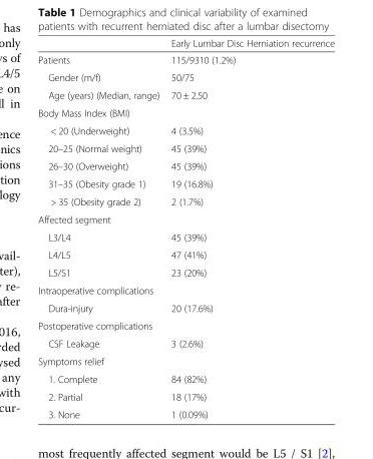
<table><thead><tr><td></td><td>Early Lumbar Disc Herniation recurrence</td></tr></thead><tbody><tr><td>Patients</td><td>115/9310 (1.2%)</td></tr><tr><td>Gender (m/f)</td><td>50/75</td></tr><tr><td>Age (years) (Median, range)</td><td>70 ± 2.50</td></tr><tr><td colspan="2">Body Mass Index (BMI)</td></tr><tr><td>&lt; 20 (Underweight)</td><td>4 (3.5%)</td></tr><tr><td>20–25 (Normal weight)</td><td>45 (39%)</td></tr><tr><td>26–30 (Overweight)</td><td>45 (39%)</td></tr><tr><td>31–35 (Obesity grade 1)</td><td>19 (16.8%)</td></tr><tr><td>&gt; 35 (Obesity grade 2)</td><td>2 (1.7%)</td></tr><tr><td colspan="2">Affected segment</td></tr><tr><td>L3/L4</td><td>45 (39%)</td></tr><tr><td>L4/L5</td><td>47 (41%)</td></tr><tr><td>L5/S1</td><td>23 (20%)</td></tr><tr><td colspan="2">Intraoperative complications</td></tr><tr><td>Dura-injury</td><td>20 (17.6%)</td></tr><tr><td colspan="2">Postoperative complications</td></tr><tr><td>CSF Leakage</td><td>3 (2.6%)</td></tr><tr><td colspan="2">Symptoms relief</td></tr><tr><td>1. Complete</td><td>84 (82%)</td></tr><tr><td>2. Partial</td><td>18 (17%)</td></tr><tr><td>3. None</td><td>1 (0.09%)</td></tr></tbody></table>